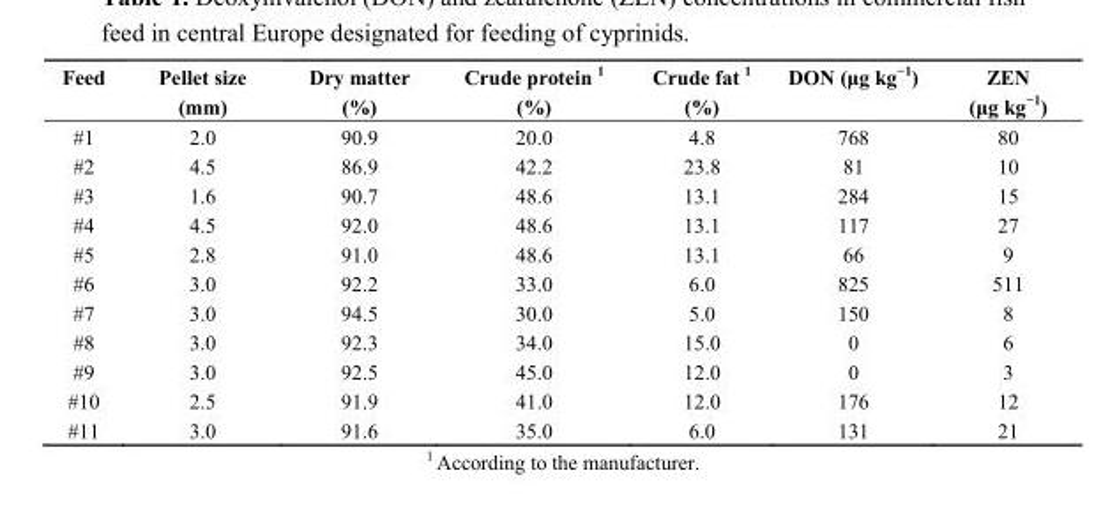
<table><thead><tr><td>Feed</td><td>Pellet size (mm)</td><td>Dry matter (%)</td><td>Crude protein <sup>1</sup> (%)</td><td>Crude fat <sup>1</sup> (%)</td><td>DON (μg kg<sup>−1</sup>)</td><td>ZEN (μg kg<sup>−1</sup>)</td></tr></thead><tbody><tr><td>#1</td><td>2.0</td><td>90.9</td><td>20.0</td><td>4.8</td><td>768</td><td>80</td></tr><tr><td>#2</td><td>4.5</td><td>86.9</td><td>42.2</td><td>23.8</td><td>81</td><td>10</td></tr><tr><td>#3</td><td>1.6</td><td>90.7</td><td>48.6</td><td>13.1</td><td>284</td><td>15</td></tr><tr><td>#4</td><td>4.5</td><td>92.0</td><td>48.6</td><td>13.1</td><td>117</td><td>27</td></tr><tr><td>#5</td><td>2.8</td><td>91.0</td><td>48.6</td><td>13.1</td><td>66</td><td>9</td></tr><tr><td>#6</td><td>3.0</td><td>92.2</td><td>33.0</td><td>6.0</td><td>825</td><td>511</td></tr><tr><td>#7</td><td>3.0</td><td>94.5</td><td>30.0</td><td>5.0</td><td>150</td><td>8</td></tr><tr><td>#8</td><td>3.0</td><td>92.3</td><td>34.0</td><td>15.0</td><td>0</td><td>6</td></tr><tr><td>#9</td><td>3.0</td><td>92.5</td><td>45.0</td><td>12.0</td><td>0</td><td>3</td></tr><tr><td>#10</td><td>2.5</td><td>91.9</td><td>41.0</td><td>12.0</td><td>176</td><td>12</td></tr><tr><td>#11</td><td>3.0</td><td>91.6</td><td>35.0</td><td>6.0</td><td>131</td><td>21</td></tr></tbody></table>